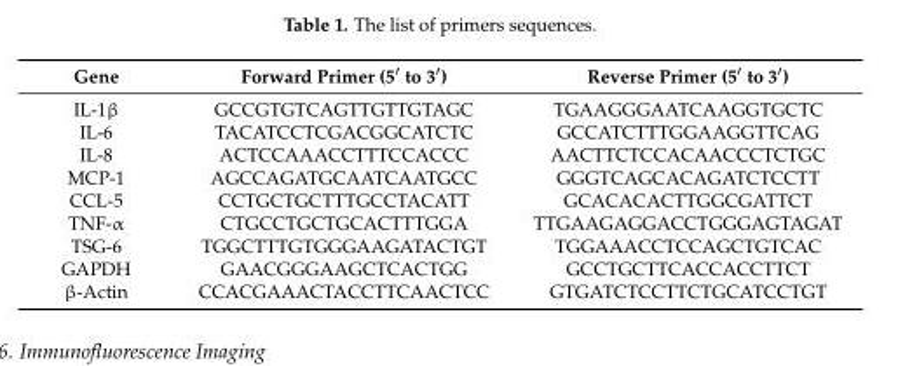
<table><thead><tr><td>Gene</td><td>Forward Primer (5′ to 3′)</td><td>Reverse Primer (5′ to 3′)</td></tr></thead><tbody><tr><td>IL-1β</td><td>GCCGTGTCAGTTGTTGTAGC</td><td>TGAAGGGAATCAAGGTGCTC</td></tr><tr><td>IL-6</td><td>TACATCCTCGACGGCATCTC</td><td>GCCATCTTTGGAAGGTTCAG</td></tr><tr><td>IL-8</td><td>ACTCCAAACCTTTCCACCC</td><td>AACTTCTCCACAACCCTCTGC</td></tr><tr><td>MCP-1</td><td>AGCCAGATGCAATCAATGCC</td><td>GGGTCAGCACAGATCTCCTT</td></tr><tr><td>CCL-5</td><td>CCTGCTGCTTTGCCTACATT</td><td>GCACACACTTGGCGATTCT</td></tr><tr><td>TNF-α</td><td>CTGCCTGCTGCACTTTGGA</td><td>TTGAAGAGGACCTGGGAGTAGAT</td></tr><tr><td>TSG-6</td><td>TGGCTTTGTGGGAAGATACTGT</td><td>TGGAAACCTCCAGCTGTCAC</td></tr><tr><td>GAPDH</td><td>GAACGGGAAGCTCACTGG</td><td>GCCTGCTTCACCACCTTCT</td></tr><tr><td>β-Actin</td><td>CCACGAAACTACCTTCAACTCC</td><td>GTGATCTCCTTCTGCATCCTGT</td></tr></tbody></table>